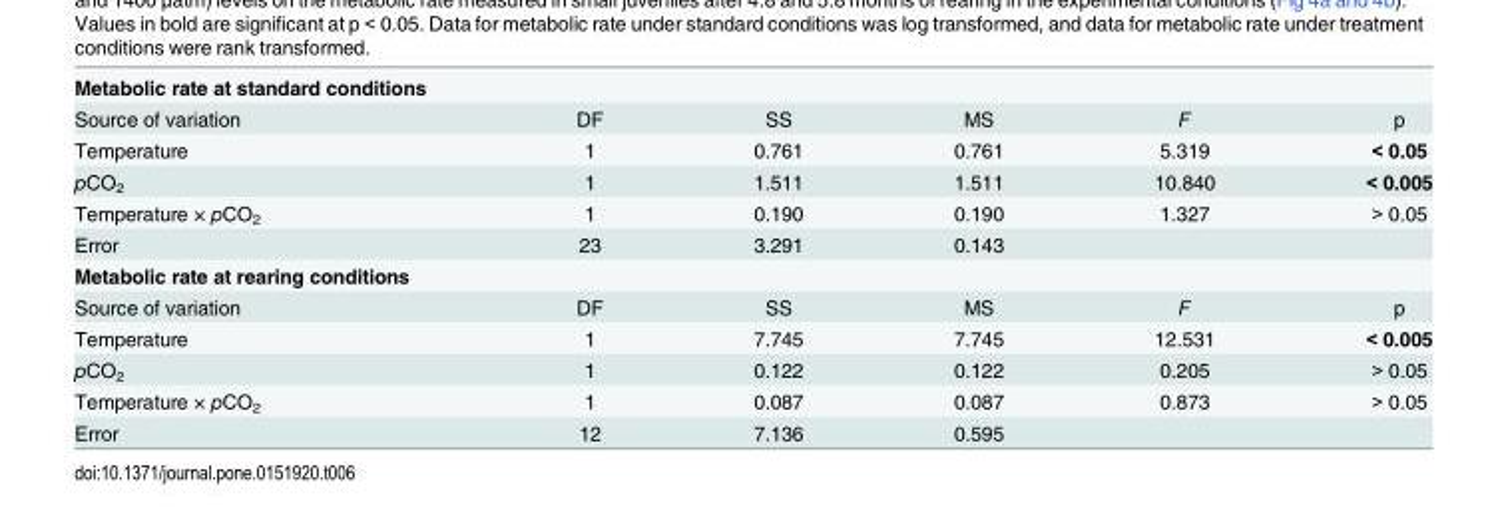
<table><tbody><tr><td colspan="6">Metabolic rate at standard conditions</td></tr><tr><td>Source of variation</td><td>DF</td><td>SS</td><td>MS</td><td>F</td><td>p</td></tr><tr><td>Temperature</td><td>1</td><td>0.761</td><td>0.761</td><td>5.319</td><td>&lt; 0.05</td></tr><tr><td>pCO<sub>2</sub></td><td>1</td><td>1.511</td><td>1.511</td><td>10.840</td><td>&lt; 0.005</td></tr><tr><td>Temperature × pCO<sub>2</sub></td><td>1</td><td>0.190</td><td>0.190</td><td>1.327</td><td>&gt; 0.05</td></tr><tr><td>Error</td><td>23</td><td>3.291</td><td>0.143</td><td></td><td></td></tr><tr><td colspan="6">Metabolic rate at rearing conditions</td></tr><tr><td>Source of variation</td><td>DF</td><td>SS</td><td>MS</td><td>F</td><td>p</td></tr><tr><td>Temperature</td><td>1</td><td>7.745</td><td>7.745</td><td>12.531</td><td>&lt; 0.005</td></tr><tr><td>pCO<sub>2</sub></td><td>1</td><td>0.122</td><td>0.122</td><td>0.205</td><td>&gt; 0.05</td></tr><tr><td>Temperature × pCO<sub>2</sub></td><td>1</td><td>0.087</td><td>0.087</td><td>0.873</td><td>&gt; 0.05</td></tr><tr><td>Error</td><td>12</td><td>7.136</td><td>0.595</td><td></td><td></td></tr></tbody></table>